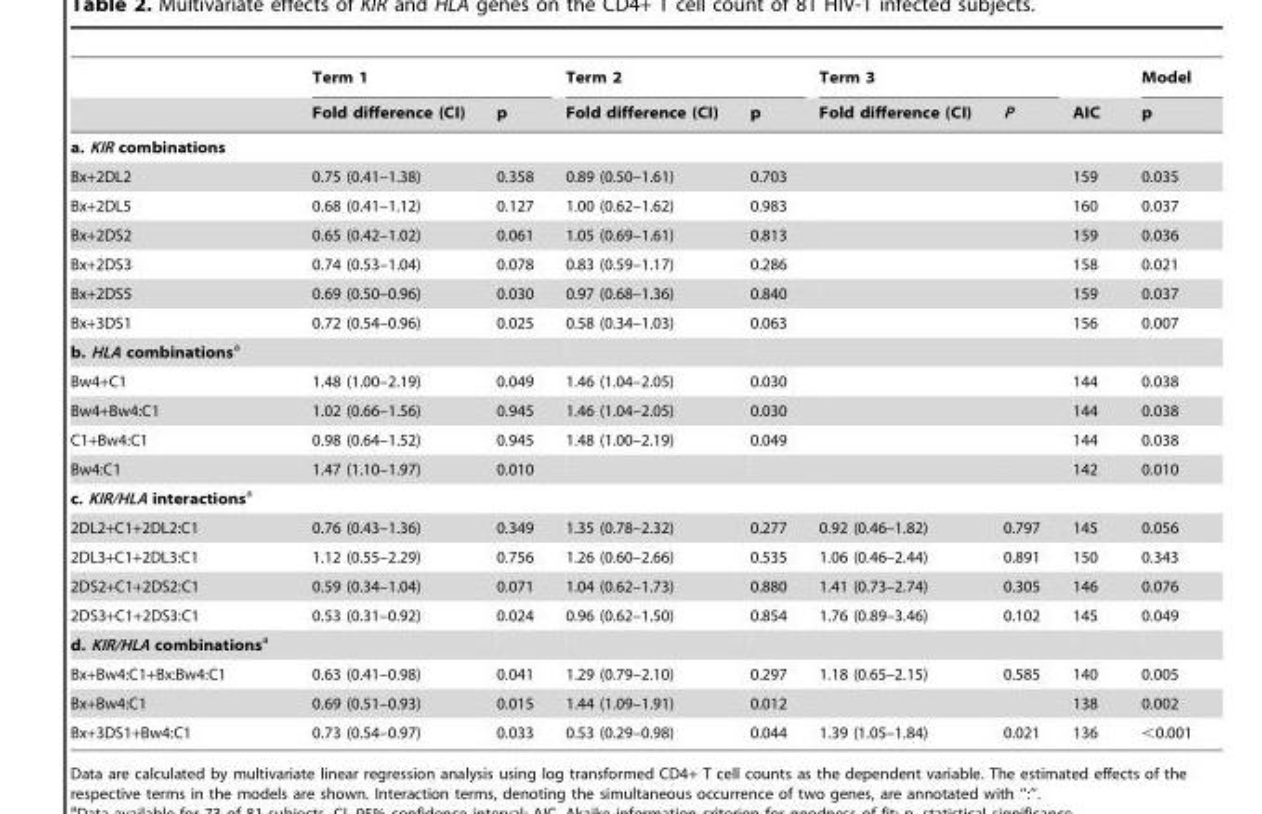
<table><thead><tr><td rowspan="2"></td><td colspan="2">Term 1</td><td colspan="2">Term 2</td><td colspan="2">Term 3</td><td rowspan="2">AIC</td><td rowspan="2">Model p</td></tr><tr><td>Fold difference (CI)</td><td>p</td><td>Fold difference (CI)</td><td>p</td><td>Fold difference (CI)</td><td>P</td></tr></thead><tbody><tr><td colspan="9">a. KIR combinations</td></tr><tr><td>Bx+2DL2</td><td>0.75 (0.41–1.38)</td><td>0.358</td><td>0.89 (0.50–1.61)</td><td>0.703</td><td></td><td></td><td>159</td><td>0.035</td></tr><tr><td>Bx+2DL5</td><td>0.68 (0.41–1.12)</td><td>0.127</td><td>1.00 (0.62–1.62)</td><td>0.983</td><td></td><td></td><td>160</td><td>0.037</td></tr><tr><td>Bx+2DS2</td><td>0.65 (0.42–1.02)</td><td>0.061</td><td>1.05 (0.69–1.61)</td><td>0.813</td><td></td><td></td><td>159</td><td>0.036</td></tr><tr><td>Bx+2DS3</td><td>0.74 (0.53–1.04)</td><td>0.078</td><td>0.83 (0.59–1.17)</td><td>0.286</td><td></td><td></td><td>158</td><td>0.021</td></tr><tr><td>Bx+2DS5</td><td>0.69 (0.50–0.96)</td><td>0.030</td><td>0.97 (0.68–1.36)</td><td>0.840</td><td></td><td></td><td>159</td><td>0.037</td></tr><tr><td>Bx+3DS1</td><td>0.72 (0.54–0.96)</td><td>0.025</td><td>0.58 (0.34–1.03)</td><td>0.063</td><td></td><td></td><td>156</td><td>0.007</td></tr><tr><td colspan="9">b. HLA combinationsa</td></tr><tr><td>Bw4+C1</td><td>1.48 (1.00–2.19)</td><td>0.049</td><td>1.46 (1.04–2.05)</td><td>0.030</td><td></td><td></td><td>144</td><td>0.038</td></tr><tr><td>Bw4+Bw4:C1</td><td>1.02 (0.66–1.56)</td><td>0.945</td><td>1.46 (1.04–2.05)</td><td>0.030</td><td></td><td></td><td>144</td><td>0.038</td></tr><tr><td>C1+Bw4:C1</td><td>0.98 (0.64–1.52)</td><td>0.945</td><td>1.48 (1.00–2.19)</td><td>0.049</td><td></td><td></td><td>144</td><td>0.038</td></tr><tr><td>Bw4:C1</td><td>1.47 (1.10–1.97)</td><td>0.010</td><td></td><td></td><td></td><td></td><td>142</td><td>0.010</td></tr><tr><td colspan="9">c. KIR/HLA interactionsa</td></tr><tr><td>2DL2+C1+2DL2:C1</td><td>0.76 (0.43–1.36)</td><td>0.349</td><td>1.35 (0.78–2.32)</td><td>0.277</td><td>0.92 (0.46–1.82)</td><td>0.797</td><td>145</td><td>0.056</td></tr><tr><td>2DL3+C1+2DL3:C1</td><td>1.12 (0.55–2.29)</td><td>0.756</td><td>1.26 (0.60–2.66)</td><td>0.535</td><td>1.06 (0.46–2.44)</td><td>0.891</td><td>150</td><td>0.343</td></tr><tr><td>2DS2+C1+2DS2:C1</td><td>0.59 (0.34–1.04)</td><td>0.071</td><td>1.04 (0.62–1.73)</td><td>0.880</td><td>1.41 (0.73–2.74)</td><td>0.305</td><td>146</td><td>0.076</td></tr><tr><td>2DS3+C1+2DS3:C1</td><td>0.53 (0.31–0.92)</td><td>0.024</td><td>0.96 (0.62–1.50)</td><td>0.854</td><td>1.76 (0.89–3.46)</td><td>0.102</td><td>145</td><td>0.049</td></tr><tr><td colspan="9">d. KIR/HLA combinationsa</td></tr><tr><td>Bx+Bw4:C1+Bx:Bw4:C1</td><td>0.63 (0.41–0.98)</td><td>0.041</td><td>1.29 (0.79–2.10)</td><td>0.297</td><td>1.18 (0.65–2.15)</td><td>0.585</td><td>140</td><td>0.005</td></tr><tr><td>Bx+Bw4:C1</td><td>0.69 (0.51–0.93)</td><td>0.015</td><td>1.44 (1.09–1.91)</td><td>0.012</td><td></td><td></td><td>138</td><td>0.002</td></tr><tr><td>Bx+3DS1+Bw4:C1</td><td>0.73 (0.54–0.97)</td><td>0.033</td><td>0.53 (0.29–0.98)</td><td>0.044</td><td>1.39 (1.05–1.84)</td><td>0.021</td><td>136</td><td>&lt;0.001</td></tr></tbody></table>